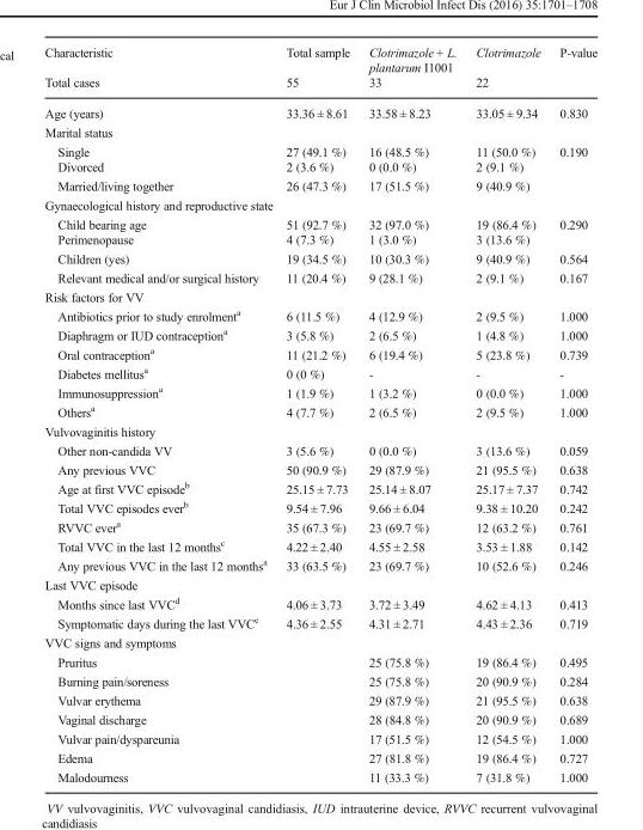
<table><thead><tr><td rowspan="2">Characteristic Total cases</td><td rowspan="2">Total sample 55</td><td rowspan="2">Clotrimazole + L. plantarum I1001 33</td><td rowspan="2">Clotrimazole 22</td><td rowspan="2">P-value</td></tr><tr></tr></thead><tbody><tr><td>Age (years)</td><td>33.36 ± 8.61</td><td>33.58 ± 8.23</td><td>33.05 ± 9.34</td><td>0.830</td></tr><tr><td colspan="5">Marital status</td></tr><tr><td>Single</td><td>27 (49.1 %)</td><td>16 (48.5 %)</td><td>11 (50.0 %)</td><td rowspan="3">0.190</td></tr><tr><td>Divorced</td><td>2 (3.6 %)</td><td>0 (0.0 %)</td><td>2 (9.1 %)</td></tr><tr><td>Married/living together</td><td>26 (47.3 %)</td><td>17 (51.5 %)</td><td>9 (40.9 %)</td></tr><tr><td colspan="5">Gynaecological history and reproductive state</td></tr><tr><td>Child bearing age</td><td>51 (92.7 %)</td><td>32 (97.0 %)</td><td>19 (86.4 %)</td><td rowspan="2">0.290</td></tr><tr><td>Perimenopause</td><td>4 (7.3 %)</td><td>1 (3.0 %)</td><td>3 (13.6 %)</td></tr><tr><td>Children (yes)</td><td>19 (34.5 %)</td><td>10 (30.3 %)</td><td>9 (40.9 %)</td><td>0.564</td></tr><tr><td>Relevant medical and/or surgical history</td><td>11 (20.4 %)</td><td>9 (28.1 %)</td><td>2 (9.1 %)</td><td>0.167</td></tr><tr><td colspan="5">Risk factors for VV</td></tr><tr><td>Antibiotics prior to study enrolment<sup>a</sup></td><td>6 (11.5 %)</td><td>4 (12.9 %)</td><td>2 (9.5 %)</td><td>1.000</td></tr><tr><td>Diaphragm or IUD contraception<sup>a</sup></td><td>3 (5.8 %)</td><td>2 (6.5 %)</td><td>1 (4.8 %)</td><td>1.000</td></tr><tr><td>Oral contraception<sup>a</sup></td><td>11 (21.2 %)</td><td>6 (19.4 %)</td><td>5 (23.8 %)</td><td>0.739</td></tr><tr><td>Diabetes mellitus<sup>a</sup></td><td>0 (0 %)</td><td>-</td><td>-</td><td>-</td></tr><tr><td>Immunosuppression<sup>a</sup></td><td>1 (1.9 %)</td><td>1 (3.2 %)</td><td>0 (0.0 %)</td><td>1.000</td></tr><tr><td>Others<sup>a</sup></td><td>4 (7.7 %)</td><td>2 (6.5 %)</td><td>2 (9.5 %)</td><td>1.000</td></tr><tr><td colspan="5">Vulvovaginitis history</td></tr><tr><td>Other non-candida VV</td><td>3 (5.6 %)</td><td>0 (0.0 %)</td><td>3 (13.6 %)</td><td>0.059</td></tr><tr><td>Any previous VVC</td><td>50 (90.9 %)</td><td>29 (87.9 %)</td><td>21 (95.5 %)</td><td>0.638</td></tr><tr><td>Age at first VVC episode<sup>b</sup></td><td>25.15 ± 7.73</td><td>25.14 ± 8.07</td><td>25.17 ± 7.37</td><td>0.742</td></tr><tr><td>Total VVC episodes ever<sup>b</sup></td><td>9.54 ± 7.96</td><td>9.66 ± 6.04</td><td>9.38 ± 10.20</td><td>0.242</td></tr><tr><td>RVVC ever<sup>a</sup></td><td>35 (67.3 %)</td><td>23 (69.7 %)</td><td>12 (63.2 %)</td><td>0.761</td></tr><tr><td>Total VVC in the last 12 months<sup>c</sup></td><td>4.22 ± 2.40</td><td>4.55 ± 2.58</td><td>3.53 ± 1.88</td><td>0.142</td></tr><tr><td>Any previous VVC in the last 12 months<sup>a</sup></td><td>33 (63.5 %)</td><td>23 (69.7 %)</td><td>10 (52.6 %)</td><td>0.246</td></tr><tr><td colspan="5">Last VVC episode</td></tr><tr><td>Months since last VVC<sup>d</sup></td><td>4.06 ± 3.73</td><td>3.72 ± 3.49</td><td>4.62 ± 4.13</td><td>0.413</td></tr><tr><td>Symptomatic days during the last VVC<sup>e</sup></td><td>4.36 ± 2.55</td><td>4.31 ± 2.71</td><td>4.43 ± 2.36</td><td>0.719</td></tr><tr><td colspan="5">VVC signs and symptoms</td></tr><tr><td colspan="2">Pruritus</td><td>25 (75.8 %)</td><td>19 (86.4 %)</td><td>0.495</td></tr><tr><td colspan="2">Burning pain/soreness</td><td>25 (75.8 %)</td><td>20 (90.9 %)</td><td>0.284</td></tr><tr><td colspan="2">Vulvar erythema</td><td>29 (87.9 %)</td><td>21 (95.5 %)</td><td>0.638</td></tr><tr><td colspan="2">Vaginal discharge</td><td>28 (84.8 %)</td><td>20 (90.9 %)</td><td>0.689</td></tr><tr><td colspan="2">Vulvar pain/dyspareunia</td><td>17 (51.5 %)</td><td>12 (54.5 %)</td><td>1.000</td></tr><tr><td colspan="2">Edema</td><td>27 (81.8 %)</td><td>19 (86.4 %)</td><td>0.727</td></tr><tr><td colspan="2">Malodourness</td><td>11 (33.3 %)</td><td>7 (31.8 %)</td><td>1.000</td></tr></tbody></table>